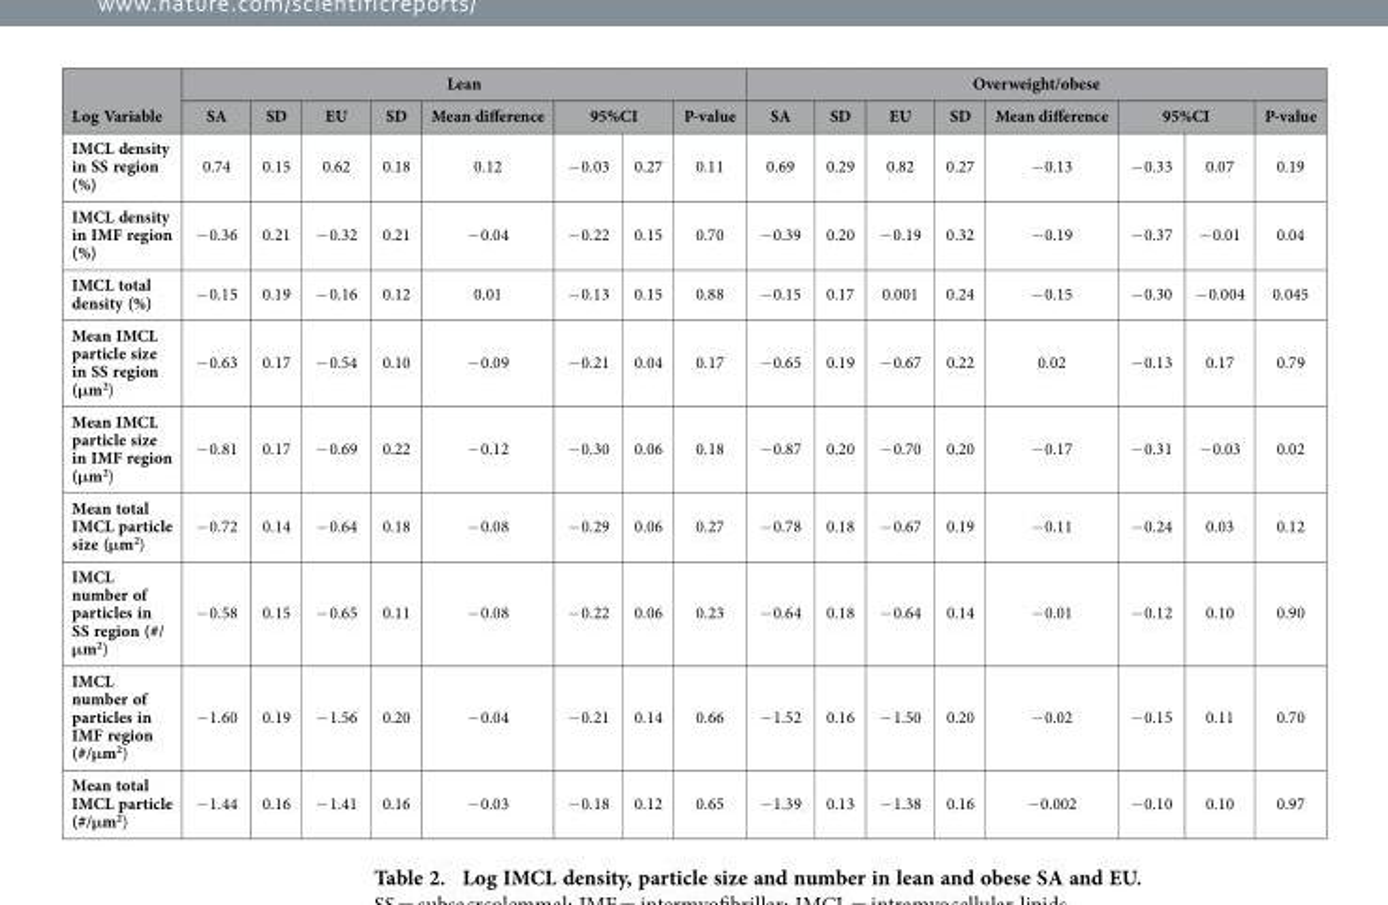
<table><thead><tr><td rowspan="3">Log Variable IMCL density in SS region (%)</td><td colspan="8">Lean</td><td colspan="8">Overweight/obese</td></tr><tr><td rowspan="2">SA 0.74</td><td rowspan="2">SD 0.15</td><td rowspan="2">EU 0.62</td><td rowspan="2">SD 0.18</td><td rowspan="2">Mean difference 0.12</td><td colspan="2">95%CI</td><td rowspan="2">P-value 0.11</td><td rowspan="2">SA 0.69</td><td rowspan="2">SD 0.29</td><td rowspan="2">EU 0.82</td><td rowspan="2">SD 0.27</td><td rowspan="2">Mean difference − 0.13</td><td colspan="2">95%CI</td><td rowspan="2">P-value 0.19</td></tr><tr><td>− 0.03</td><td>0.27</td><td>− 0.33</td><td>0.07</td></tr></thead><tbody><tr><td>IMCL density in IMF region (%)</td><td>− 0.36</td><td>0.21</td><td>− 0.32</td><td>0.21</td><td>− 0.04</td><td>− 0.22</td><td>0.15</td><td>0.70</td><td>− 0.39</td><td>0.20</td><td>− 0.19</td><td>0.32</td><td>− 0.19</td><td>− 0.37</td><td>− 0.01</td><td>0.04</td></tr><tr><td>IMCL total density (%)</td><td>− 0.15</td><td>0.19</td><td>− 0.16</td><td>0.12</td><td>0.01</td><td>− 0.13</td><td>0.15</td><td>0.88</td><td>− 0.15</td><td>0.17</td><td>0.001</td><td>0.24</td><td>− 0.15</td><td>− 0.30</td><td>− 0.004</td><td>0.045</td></tr><tr><td>Mean IMCL particle size in SS region (μm<sup>2</sup>)</td><td>− 0.63</td><td>0.17</td><td>− 0.54</td><td>0.10</td><td>− 0.09</td><td>− 0.21</td><td>0.04</td><td>0.17</td><td>− 0.65</td><td>0.19</td><td>− 0.67</td><td>0.22</td><td>0.02</td><td>− 0.13</td><td>0.17</td><td>0.79</td></tr><tr><td>Mean IMCL particle size in IMF region (μm<sup>2</sup>)</td><td>− 0.81</td><td>0.17</td><td>− 0.69</td><td>0.22</td><td>− 0.12</td><td>− 0.30</td><td>0.06</td><td>0.18</td><td>− 0.87</td><td>0.20</td><td>− 0.70</td><td>0.20</td><td>− 0.17</td><td>− 0.31</td><td>− 0.03</td><td>0.02</td></tr><tr><td>Mean total IMCL particle size (μm<sup>2</sup>)</td><td>− 0.72</td><td>0.14</td><td>− 0.64</td><td>0.18</td><td>− 0.08</td><td>− 0.29</td><td>0.06</td><td>0.27</td><td>− 0.78</td><td>0.18</td><td>− 0.67</td><td>0.19</td><td>− 0.11</td><td>− 0.24</td><td>0.03</td><td>0.12</td></tr><tr><td>IMCL number of particles in SS region (#/ μm<sup>2</sup>)</td><td>− 0.58</td><td>0.15</td><td>− 0.65</td><td>0.11</td><td>− 0.08</td><td>− 0.22</td><td>0.06</td><td>0.23</td><td>− 0.64</td><td>0.18</td><td>− 0.64</td><td>0.14</td><td>− 0.01</td><td>− 0.12</td><td>0.10</td><td>0.90</td></tr><tr><td>IMCL number of particles in IMF region (#/μm<sup>2</sup>)</td><td>− 1.60</td><td>0.19</td><td>− 1.56</td><td>0.20</td><td>− 0.04</td><td>− 0.21</td><td>0.14</td><td>0.66</td><td>− 1.52</td><td>0.16</td><td>− 1.50</td><td>0.20</td><td>− 0.02</td><td>− 0.15</td><td>0.11</td><td>0.70</td></tr><tr><td>Mean total IMCL particle (#/μm<sup>2</sup>)</td><td>− 1.44</td><td>0.16</td><td>− 1.41</td><td>0.16</td><td>− 0.03</td><td>− 0.18</td><td>0.12</td><td>0.65</td><td>− 1.39</td><td>0.13</td><td>− 1.38</td><td>0.16</td><td>− 0.002</td><td>− 0.10</td><td>0.10</td><td>0.97</td></tr></tbody></table>